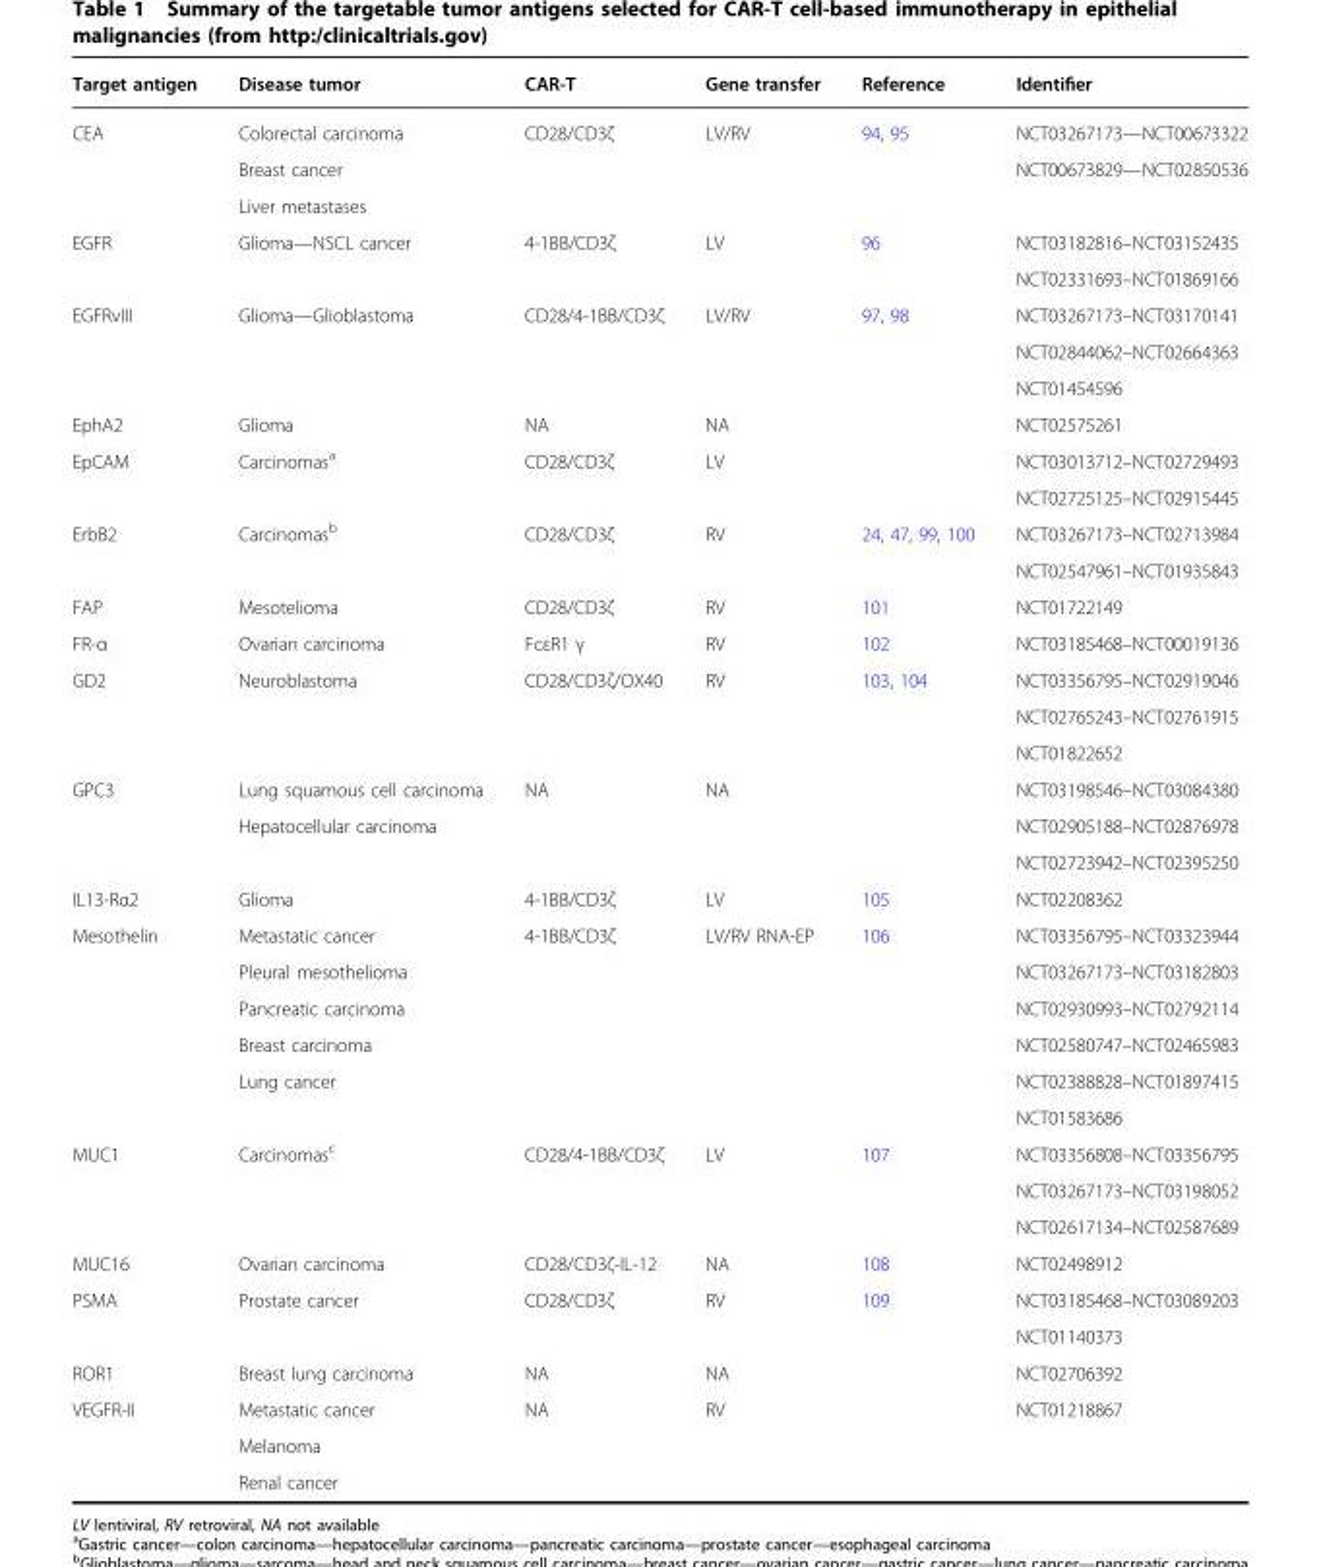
<table><thead><tr><td>Target antigen</td><td>Disease tumor</td><td>CAR-T</td><td>Gene transfer</td><td>Reference</td><td>Identifier</td></tr></thead><tbody><tr><td rowspan="3">CEA</td><td>Colorectal carcinoma</td><td rowspan="3">CD28/CD3ζ</td><td rowspan="3">LV/RV</td><td rowspan="3">94, 95</td><td>NCT03267173—NCT00673322</td></tr><tr><td>Breast cancer</td><td rowspan="2">NCT00673829—NCT02850536</td></tr><tr><td>Liver metastases</td></tr><tr><td rowspan="2">EGFR</td><td rowspan="2">Glioma—NSCL cancer</td><td rowspan="2">4-1BB/CD3ζ</td><td rowspan="2">LV</td><td rowspan="2">96</td><td>NCT03182816–NCT03152435</td></tr><tr><td>NCT02331693–NCT01869166</td></tr><tr><td rowspan="3">EGFRvIII</td><td rowspan="3">Glioma—Glioblastoma</td><td rowspan="3">CD28/4-1BB/CD3ζ</td><td rowspan="3">LV/RV</td><td rowspan="3">97, 98</td><td>NCT03267173–NCT03170141</td></tr><tr><td>NCT02844062–NCT02664363</td></tr><tr><td>NCT01454596</td></tr><tr><td>EphA2</td><td>Glioma</td><td>NA</td><td>NA</td><td></td><td>NCT02575261</td></tr><tr><td rowspan="2">EpCAM</td><td rowspan="2">Carcinomas<sup>a</sup></td><td rowspan="2">CD28/CD3ζ</td><td rowspan="2">LV</td><td rowspan="2"></td><td>NCT03013712–NCT02729493</td></tr><tr><td>NCT02725125–NCT02915445</td></tr><tr><td rowspan="2">ErbB2</td><td rowspan="2">Carcinomas<sup>b</sup></td><td rowspan="2">CD28/CD3ζ</td><td rowspan="2">RV</td><td rowspan="2">24, 47, 99, 100</td><td>NCT03267173–NCT02713984</td></tr><tr><td>NCT02547961–NCT01935843</td></tr><tr><td>FAP</td><td>Mesotelioma</td><td>CD28/CD3ζ</td><td>RV</td><td>101</td><td>NCT01722149</td></tr><tr><td>FR-α</td><td>Ovarian carcinoma</td><td>FcεR1 γ</td><td>RV</td><td>102</td><td>NCT03185468–NCT00019136</td></tr><tr><td rowspan="3">GD2</td><td rowspan="3">Neuroblastoma</td><td rowspan="3">CD28/CD3ζ/OX40</td><td rowspan="3">RV</td><td rowspan="3">103, 104</td><td>NCT03356795–NCT02919046</td></tr><tr><td>NCT02765243–NCT02761915</td></tr><tr><td>NCT01822652</td></tr><tr><td rowspan="3">GPC3</td><td>Lung squamous cell carcinoma</td><td rowspan="3">NA</td><td rowspan="3">NA</td><td rowspan="3"></td><td>NCT03198546–NCT03084380</td></tr><tr><td rowspan="2">Hepatocellular carcinoma</td><td>NCT02905188–NCT02876978</td></tr><tr><td>NCT02723942–NCT02395250</td></tr><tr><td>IL13-Rα2</td><td>Glioma</td><td>4-1BB/CD3ζ</td><td>LV</td><td>105</td><td>NCT02208362</td></tr><tr><td rowspan="6">Mesothelin</td><td>Metastatic cancer</td><td rowspan="6">4-1BB/CD3ζ</td><td rowspan="6">LV/RV RNA-EP</td><td rowspan="6">106</td><td>NCT03356795–NCT03323944</td></tr><tr><td>Pleural mesothelioma</td><td>NCT03267173–NCT03182803</td></tr><tr><td>Pancreatic carcinoma</td><td>NCT02930993–NCT02792114</td></tr><tr><td>Breast carcinoma</td><td>NCT02580747–NCT02465983</td></tr><tr><td rowspan="2">Lung cancer</td><td>NCT02388828–NCT01897415</td></tr><tr><td>NCT01583686</td></tr><tr><td rowspan="3">MUC1</td><td rowspan="3">Carcinomas<sup>c</sup></td><td rowspan="3">CD28/4-1BB/CD3ζ</td><td rowspan="3">LV</td><td rowspan="3">107</td><td>NCT03356808–NCT03356795</td></tr><tr><td>NCT03267173–NCT03198052</td></tr><tr><td>NCT02617134–NCT02587689</td></tr><tr><td>MUC16</td><td>Ovarian carcinoma</td><td>CD28/CD3ζ-IL-12</td><td>NA</td><td>108</td><td>NCT02498912</td></tr><tr><td rowspan="2">PSMA</td><td rowspan="2">Prostate cancer</td><td rowspan="2">CD28/CD3ζ</td><td rowspan="2">RV</td><td rowspan="2">109</td><td>NCT03185468–NCT03089203</td></tr><tr><td>NCT01140373</td></tr><tr><td>ROR1</td><td>Breast lung carcinoma</td><td>NA</td><td>NA</td><td></td><td>NCT02706392</td></tr><tr><td rowspan="3">VEGFR-II</td><td>Metastatic cancer</td><td rowspan="2">NA</td><td rowspan="2">RV</td><td rowspan="2"></td><td rowspan="2">NCT01218867</td></tr><tr><td>Melanoma</td></tr><tr><td>Renal cancer</td><td></td><td></td><td></td><td></td></tr></tbody></table>